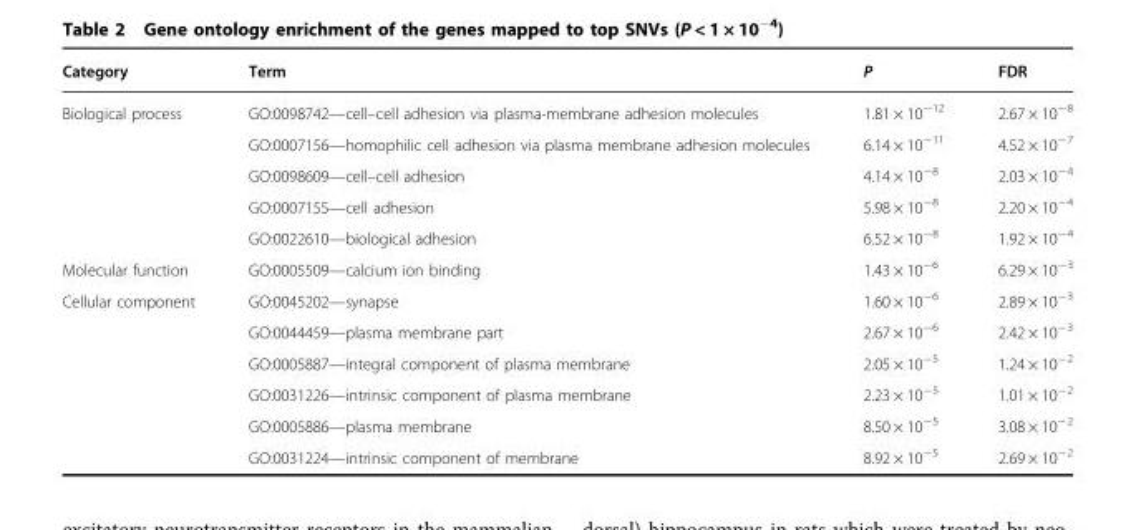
<table><thead><tr><td>Category</td><td>Term</td><td>P</td><td>FDR</td></tr></thead><tbody><tr><td rowspan="5">Biological process</td><td>GO:0098742—cell–cell adhesion via plasma-membrane adhesion molecules</td><td>1.81 × 10<sup>−12</sup></td><td>2.67 × 10<sup>−8</sup></td></tr><tr><td>GO:0007156—homophilic cell adhesion via plasma membrane adhesion molecules</td><td>6.14 × 10<sup>−11</sup></td><td>4.52 × 10<sup>−7</sup></td></tr><tr><td>GO:0098609—cell–cell adhesion</td><td>4.14 × 10<sup>−8</sup></td><td>2.03 × 10<sup>−4</sup></td></tr><tr><td>GO:0007155—cell adhesion</td><td>5.98 × 10<sup>−8</sup></td><td>2.20 × 10<sup>−4</sup></td></tr><tr><td>GO:0022610—biological adhesion</td><td>6.52 × 10<sup>−8</sup></td><td>1.92 × 10<sup>−4</sup></td></tr><tr><td>Molecular function</td><td>GO:0005509—calcium ion binding</td><td>1.43 × 10<sup>−6</sup></td><td>6.29 × 10<sup>−3</sup></td></tr><tr><td rowspan="6">Cellular component</td><td>GO:0045202—synapse</td><td>1.60 × 10<sup>−6</sup></td><td>2.89 × 10<sup>−3</sup></td></tr><tr><td>GO:0044459—plasma membrane part</td><td>2.67 × 10<sup>−6</sup></td><td>2.42 × 10<sup>−3</sup></td></tr><tr><td>GO:0005887—integral component of plasma membrane</td><td>2.05 × 10<sup>−5</sup></td><td>1.24 × 10<sup>−2</sup></td></tr><tr><td>GO:0031226—intrinsic component of plasma membrane</td><td>2.23 × 10<sup>−5</sup></td><td>1.01 × 10<sup>−2</sup></td></tr><tr><td>GO:0005886—plasma membrane</td><td>8.50 × 10<sup>−5</sup></td><td>3.08 × 10<sup>−2</sup></td></tr><tr><td>GO:0031224—intrinsic component of membrane</td><td>8.92 × 10<sup>−5</sup></td><td>2.69 × 10<sup>−2</sup></td></tr></tbody></table>